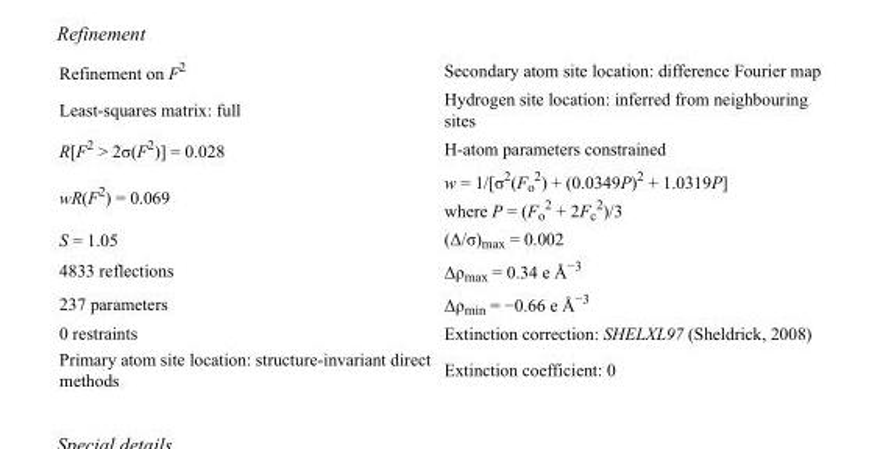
<table><tbody><tr><td>Refinement on F<sup>2</sup></td><td>Secondary atom site location: difference Fourier map</td></tr><tr><td>Least-squares matrix: full</td><td>Hydrogen site location: inferred from neighbouring sites</td></tr><tr><td>R[F<sup>2</sup> &gt; 2σ(F<sup>2</sup>)] = 0.028</td><td>H-atom parameters constrained</td></tr><tr><td>wR(F<sup>2</sup>) = 0.069</td><td>w = 1/[σ<sup>2</sup>(F<sub>o</sub> <sup>2</sup>) + (0.0349P)<sup>2</sup> + 1.0319P] where P = (F<sub>o</sub> <sup>2</sup> + 2F<sub>c</sub> <sup>2</sup>)/3</td></tr><tr><td>S = 1.05</td><td>(Δ/σ)<sub>max</sub> = 0.002</td></tr><tr><td>4833 reflections</td><td>Δρ<sub>max</sub> = 0.34 e Å<sup>−3</sup></td></tr><tr><td>237 parameters</td><td>Δρ<sub>min</sub> = −0.66 e Å<sup>−3</sup></td></tr><tr><td>0 restraints</td><td>Extinction correction: SHELXL97 (Sheldrick, 2008)</td></tr><tr><td>Primary atom site location: structure-invariant direct methods</td><td>Extinction coefficient: 0</td></tr></tbody></table>